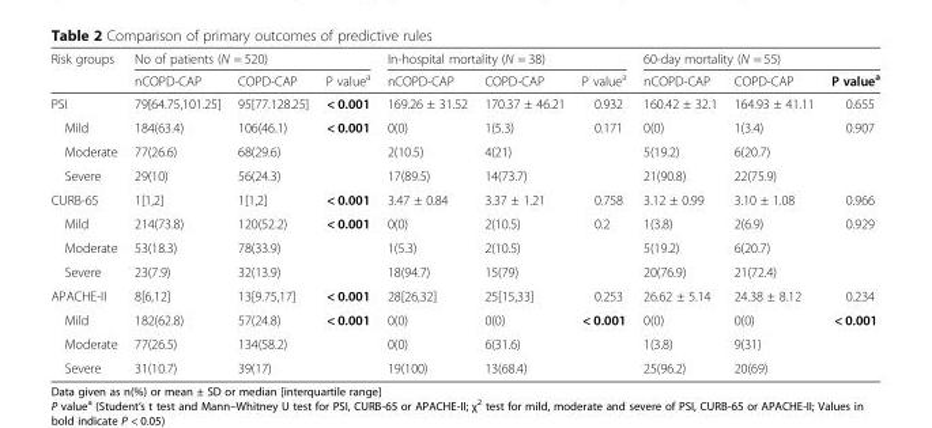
<table><thead><tr><td rowspan="2">Risk groups</td><td colspan="3">No of patients (N = 520)</td><td colspan="3">In-hospital mortality (N = 38)</td><td colspan="3">60-day mortality (N = 55)</td></tr><tr><td>nCOPD-CAP</td><td>COPD-CAP</td><td>P value<sup>a</sup></td><td>nCOPD-CAP</td><td>COPD-CAP</td><td>P value<sup>a</sup></td><td>nCOPD-CAP</td><td>COPD-CAP</td><td>P value<sup>a</sup></td></tr></thead><tbody><tr><td>PSI</td><td>79[64.75,101.25]</td><td>95[77.128.25]</td><td>&lt; 0.001</td><td>169.26 ± 31.52</td><td>170.37 ± 46.21</td><td>0.932</td><td>160.42 ± 32.1</td><td>164.93 ± 41.11</td><td>0.655</td></tr><tr><td>Mild</td><td>184(63.4)</td><td>106(46.1)</td><td>&lt; 0.001</td><td>0(0)</td><td>1(5.3)</td><td>0.171</td><td>0(0)</td><td>1(3.4)</td><td>0.907</td></tr><tr><td>Moderate</td><td>77(26.6)</td><td>68(29.6)</td><td></td><td>2(10.5)</td><td>4(21)</td><td></td><td>5(19.2)</td><td>6(20.7)</td><td></td></tr><tr><td>Severe</td><td>29(10)</td><td>56(24.3)</td><td></td><td>17(89.5)</td><td>14(73.7)</td><td></td><td>21(90.8)</td><td>22(75.9)</td><td></td></tr><tr><td>CURB-65</td><td>1[1,2]</td><td>1[1,2]</td><td>&lt; 0.001</td><td>3.47 ± 0.84</td><td>3.37 ± 1.21</td><td>0.758</td><td>3.12 ± 0.99</td><td>3.10 ± 1.08</td><td>0.966</td></tr><tr><td>Mild</td><td>214(73.8)</td><td>120(52.2)</td><td>&lt; 0.001</td><td>0(0)</td><td>2(10.5)</td><td>0.2</td><td>1(3.8)</td><td>2(6.9)</td><td>0.929</td></tr><tr><td>Moderate</td><td>53(18.3)</td><td>78(33.9)</td><td></td><td>1(5.3)</td><td>2(10.5)</td><td></td><td>5(19.2)</td><td>6(20.7)</td><td></td></tr><tr><td>Severe</td><td>23(7.9)</td><td>32(13.9)</td><td></td><td>18(94.7)</td><td>15(79)</td><td></td><td>20(76.9)</td><td>21(72.4)</td><td></td></tr><tr><td>APACHE-II</td><td>8[6,12]</td><td>13[9.75,17]</td><td>&lt; 0.001</td><td>28[26,32]</td><td>25[15,33]</td><td>0.253</td><td>26.62 ± 5.14</td><td>24.38 ± 8.12</td><td>0.234</td></tr><tr><td>Mild</td><td>182(62.8)</td><td>57(24.8)</td><td>&lt; 0.001</td><td>0(0)</td><td>0(0)</td><td>&lt; 0.001</td><td>0(0)</td><td>0(0)</td><td>&lt; 0.001</td></tr><tr><td>Moderate</td><td>77(26.5)</td><td>134(58.2)</td><td></td><td>0(0)</td><td>6(31.6)</td><td></td><td>1(3.8)</td><td>9(31)</td><td></td></tr><tr><td>Severe</td><td>31(10.7)</td><td>39(17)</td><td></td><td>19(100)</td><td>13(68.4)</td><td></td><td>25(96.2)</td><td>20(69)</td><td></td></tr></tbody></table>